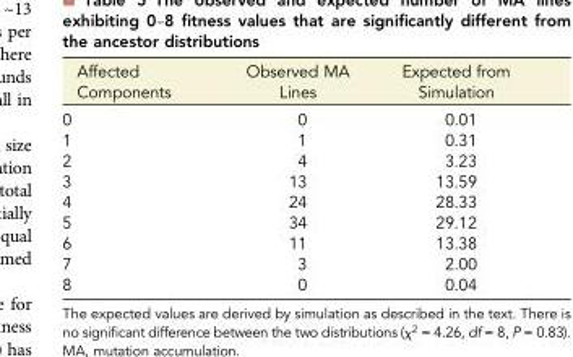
<table><thead><tr><td>Affected Components</td><td>Observed MA Lines</td><td>Expected from Simulation</td></tr></thead><tbody><tr><td>0</td><td>0</td><td>0.01</td></tr><tr><td>1</td><td>1</td><td>0.31</td></tr><tr><td>2</td><td>4</td><td>3.23</td></tr><tr><td>3</td><td>13</td><td>13.59</td></tr><tr><td>4</td><td>24</td><td>28.33</td></tr><tr><td>5</td><td>34</td><td>29.12</td></tr><tr><td>6</td><td>11</td><td>13.38</td></tr><tr><td>7</td><td>3</td><td>2.00</td></tr><tr><td>8</td><td>0</td><td>0.04</td></tr></tbody></table>